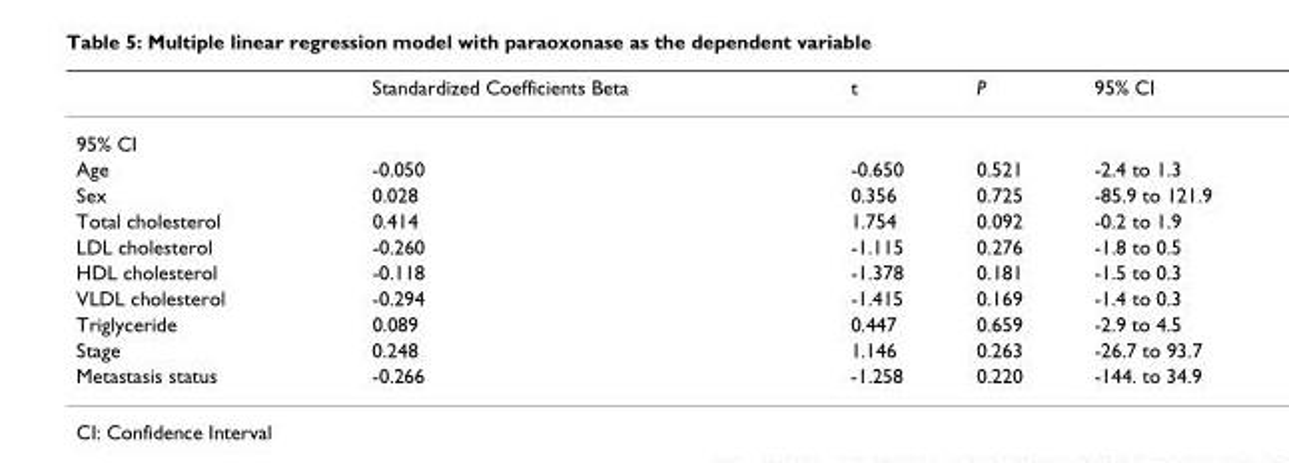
<table><thead><tr><td></td><td>Standardized Coefficients Beta</td><td>t</td><td>P</td><td>95% CI</td></tr></thead><tbody><tr><td colspan="5">95% CI</td></tr><tr><td>Age</td><td>-0.050</td><td>-0.650</td><td>0.521</td><td>-2.4 to 1.3</td></tr><tr><td>Sex</td><td>0.028</td><td>0.356</td><td>0.725</td><td>-85.9 to 121.9</td></tr><tr><td>Total cholesterol</td><td>0.414</td><td>1.754</td><td>0.092</td><td>-0.2 to 1.9</td></tr><tr><td>LDL cholesterol</td><td>-0.260</td><td>-1.115</td><td>0.276</td><td>-1.8 to 0.5</td></tr><tr><td>HDL cholesterol</td><td>-0.118</td><td>-1.378</td><td>0.181</td><td>-1.5 to 0.3</td></tr><tr><td>VLDL cholesterol</td><td>-0.294</td><td>-1.415</td><td>0.169</td><td>-1.4 to 0.3</td></tr><tr><td>Triglyceride</td><td>0.089</td><td>0.447</td><td>0.659</td><td>-2.9 to 4.5</td></tr><tr><td>Stage</td><td>0.248</td><td>1.146</td><td>0.263</td><td>-26.7 to 93.7</td></tr><tr><td>Metastasis status</td><td>-0.266</td><td>-1.258</td><td>0.220</td><td>-144. to 34.9</td></tr></tbody></table>